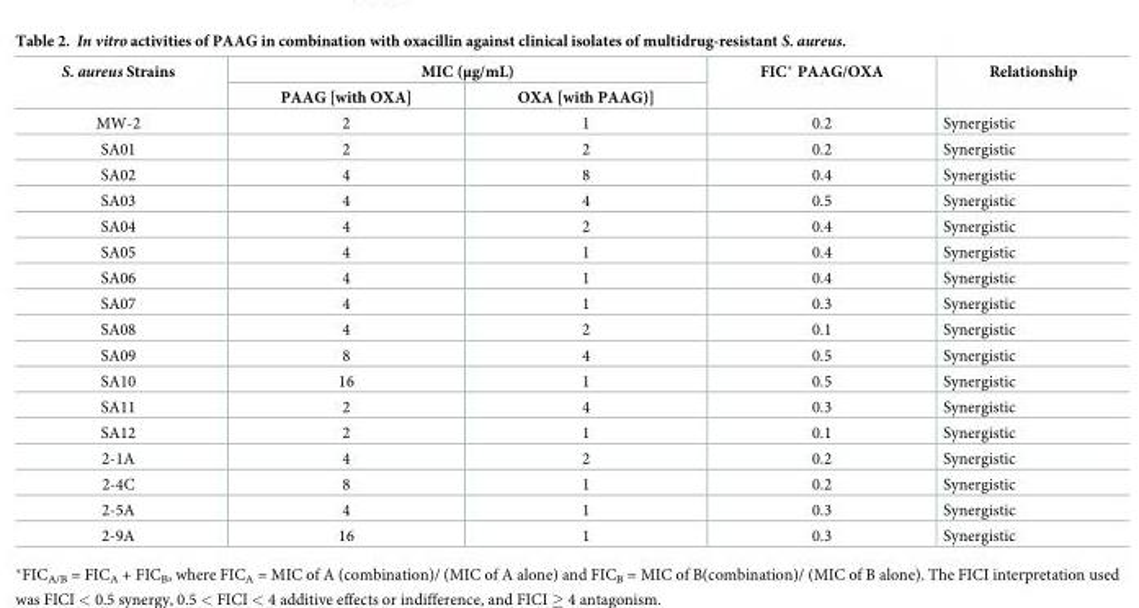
<table><thead><tr><td rowspan="2">S. aureus Strains</td><td colspan="2">MIC (μg/mL)</td><td rowspan="2">FIC* PAAG/OXA</td><td rowspan="2">Relationship</td></tr><tr><td>PAAG [with OXA]</td><td>OXA [with PAAG)]</td></tr></thead><tbody><tr><td>MW-2</td><td>2</td><td>1</td><td>0.2</td><td>Synergistic</td></tr><tr><td>SA01</td><td>2</td><td>2</td><td>0.2</td><td>Synergistic</td></tr><tr><td>SA02</td><td>4</td><td>8</td><td>0.4</td><td>Synergistic</td></tr><tr><td>SA03</td><td>4</td><td>4</td><td>0.5</td><td>Synergistic</td></tr><tr><td>SA04</td><td>4</td><td>2</td><td>0.4</td><td>Synergistic</td></tr><tr><td>SA05</td><td>4</td><td>1</td><td>0.4</td><td>Synergistic</td></tr><tr><td>SA06</td><td>4</td><td>1</td><td>0.4</td><td>Synergistic</td></tr><tr><td>SA07</td><td>4</td><td>1</td><td>0.3</td><td>Synergistic</td></tr><tr><td>SA08</td><td>4</td><td>2</td><td>0.1</td><td>Synergistic</td></tr><tr><td>SA09</td><td>8</td><td>4</td><td>0.5</td><td>Synergistic</td></tr><tr><td>SA10</td><td>16</td><td>1</td><td>0.5</td><td>Synergistic</td></tr><tr><td>SA11</td><td>2</td><td>4</td><td>0.3</td><td>Synergistic</td></tr><tr><td>SA12</td><td>2</td><td>1</td><td>0.1</td><td>Synergistic</td></tr><tr><td>2-1A</td><td>4</td><td>2</td><td>0.2</td><td>Synergistic</td></tr><tr><td>2-4C</td><td>8</td><td>1</td><td>0.2</td><td>Synergistic</td></tr><tr><td>2-5A</td><td>4</td><td>1</td><td>0.3</td><td>Synergistic</td></tr><tr><td>2-9A</td><td>16</td><td>1</td><td>0.3</td><td>Synergistic</td></tr></tbody></table>